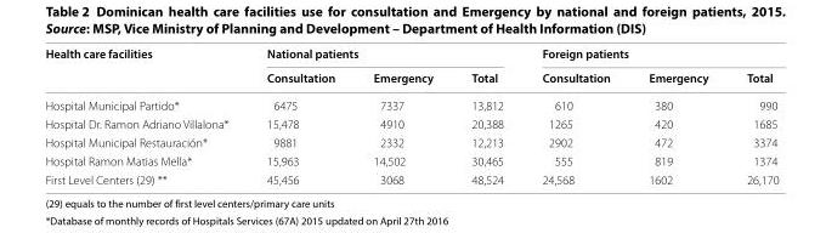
<table><thead><tr><td rowspan="2">Health care facilities</td><td colspan="3">National patients</td><td colspan="3">Foreign patients</td></tr><tr><td>Consultation</td><td>Emergency</td><td>Total</td><td>Consultation</td><td>Emergency</td><td>Total</td></tr></thead><tbody><tr><td>Hospital Municipal Partido*</td><td>6475</td><td>7337</td><td>13,812</td><td>610</td><td>380</td><td>990</td></tr><tr><td>Hospital Dr. Ramon Adriano Villalona*</td><td>15,478</td><td>4910</td><td>20,388</td><td>1265</td><td>420</td><td>1685</td></tr><tr><td>Hospital Municipal Restauración*</td><td>9881</td><td>2332</td><td>12,213</td><td>2902</td><td>472</td><td>3374</td></tr><tr><td>Hospital Ramon Matias Mella*</td><td>15,963</td><td>14,502</td><td>30,465</td><td>555</td><td>819</td><td>1374</td></tr><tr><td>First Level Centers (29) **</td><td>45,456</td><td>3068</td><td>48,524</td><td>24,568</td><td>1602</td><td>26,170</td></tr></tbody></table>